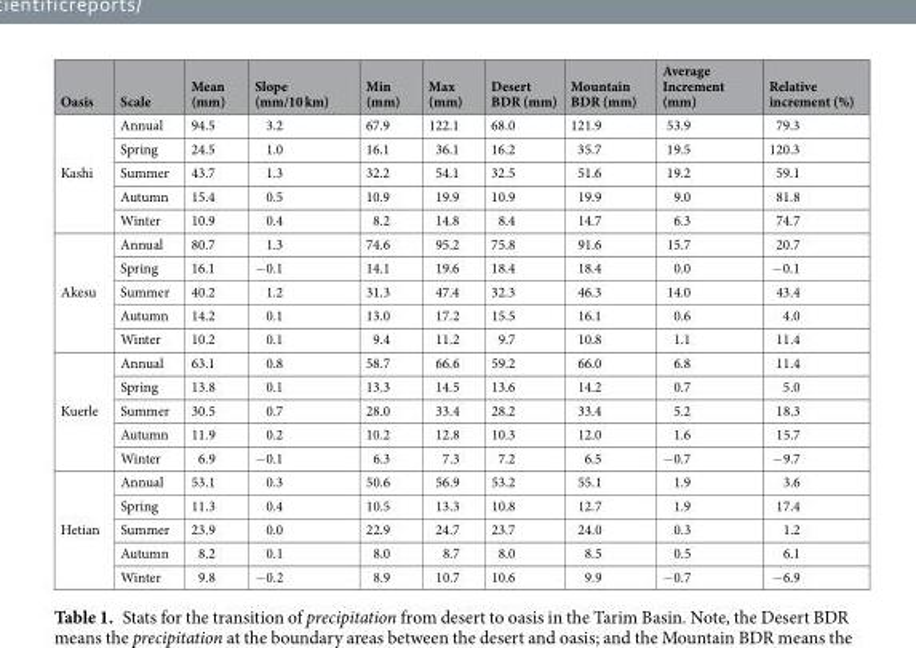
<table><thead><tr><td>Oasis</td><td>Scale</td><td>Mean (mm)</td><td>Slope (mm/10 km)</td><td>Min (mm)</td><td>Max (mm)</td><td>Desert BDR (mm)</td><td>Mountain BDR (mm)</td><td>Average Increment (mm)</td><td>Relative increment (%)</td></tr></thead><tbody><tr><td rowspan="5">Kashi</td><td>Annual</td><td>94.5</td><td>3.2</td><td>67.9</td><td>122.1</td><td>68.0</td><td>121.9</td><td>53.9</td><td>79.3</td></tr><tr><td>Spring</td><td>24.5</td><td>1.0</td><td>16.1</td><td>36.1</td><td>16.2</td><td>35.7</td><td>19.5</td><td>120.3</td></tr><tr><td>Summer</td><td>43.7</td><td>1.3</td><td>32.2</td><td>54.1</td><td>32.5</td><td>51.6</td><td>19.2</td><td>59.1</td></tr><tr><td>Autumn</td><td>15.4</td><td>0.5</td><td>10.9</td><td>19.9</td><td>10.9</td><td>19.9</td><td>9.0</td><td>81.8</td></tr><tr><td>Winter</td><td>10.9</td><td>0.4</td><td>8.2</td><td>14.8</td><td>8.4</td><td>14.7</td><td>6.3</td><td>74.7</td></tr><tr><td rowspan="5">Akesu</td><td>Annual</td><td>80.7</td><td>1.3</td><td>74.6</td><td>95.2</td><td>75.8</td><td>91.6</td><td>15.7</td><td>20.7</td></tr><tr><td>Spring</td><td>16.1</td><td>−0.1</td><td>14.1</td><td>19.6</td><td>18.4</td><td>18.4</td><td>0.0</td><td>−0.1</td></tr><tr><td>Summer</td><td>40.2</td><td>1.2</td><td>31.3</td><td>47.4</td><td>32.3</td><td>46.3</td><td>14.0</td><td>43.4</td></tr><tr><td>Autumn</td><td>14.2</td><td>0.1</td><td>13.0</td><td>17.2</td><td>15.5</td><td>16.1</td><td>0.6</td><td>4.0</td></tr><tr><td>Winter</td><td>10.2</td><td>0.1</td><td>9.4</td><td>11.2</td><td>9.7</td><td>10.8</td><td>1.1</td><td>11.4</td></tr><tr><td rowspan="5">Kuerle</td><td>Annual</td><td>63.1</td><td>0.8</td><td>58.7</td><td>66.6</td><td>59.2</td><td>66.0</td><td>6.8</td><td>11.4</td></tr><tr><td>Spring</td><td>13.8</td><td>0.1</td><td>13.3</td><td>14.5</td><td>13.6</td><td>14.2</td><td>0.7</td><td>5.0</td></tr><tr><td>Summer</td><td>30.5</td><td>0.7</td><td>28.0</td><td>33.4</td><td>28.2</td><td>33.4</td><td>5.2</td><td>18.3</td></tr><tr><td>Autumn</td><td>11.9</td><td>0.2</td><td>10.2</td><td>12.8</td><td>10.3</td><td>12.0</td><td>1.6</td><td>15.7</td></tr><tr><td>Winter</td><td>6.9</td><td>−0.1</td><td>6.3</td><td>7.3</td><td>7.2</td><td>6.5</td><td>−0.7</td><td>−9.7</td></tr><tr><td rowspan="5">Hetian</td><td>Annual</td><td>53.1</td><td>0.3</td><td>50.6</td><td>56.9</td><td>53.2</td><td>55.1</td><td>1.9</td><td>3.6</td></tr><tr><td>Spring</td><td>11.3</td><td>0.4</td><td>10.5</td><td>13.3</td><td>10.8</td><td>12.7</td><td>1.9</td><td>17.4</td></tr><tr><td>Summer</td><td>23.9</td><td>0.0</td><td>22.9</td><td>24.7</td><td>23.7</td><td>24.0</td><td>0.3</td><td>1.2</td></tr><tr><td>Autumn</td><td>8.2</td><td>0.1</td><td>8.0</td><td>8.7</td><td>8.0</td><td>8.5</td><td>0.5</td><td>6.1</td></tr><tr><td>Winter</td><td>9.8</td><td>−0.2</td><td>8.9</td><td>10.7</td><td>10.6</td><td>9.9</td><td>−0.7</td><td>−6.9</td></tr></tbody></table>